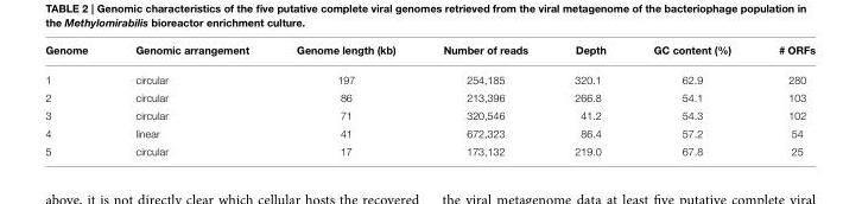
<table><thead><tr><td>Genome</td><td>Genomic arrangement</td><td>Genome length (kb)</td><td>Number of reads</td><td>Depth</td><td>GC content (%)</td><td># ORFs</td></tr></thead><tbody><tr><td>1</td><td>circular</td><td>197</td><td>254,185</td><td>320.1</td><td>62.9</td><td>280</td></tr><tr><td>2</td><td>circular</td><td>86</td><td>213,396</td><td>266.8</td><td>54.1</td><td>103</td></tr><tr><td>3</td><td>circular</td><td>71</td><td>320,546</td><td>41.2</td><td>54.3</td><td>102</td></tr><tr><td>4</td><td>linear</td><td>41</td><td>672,323</td><td>86.4</td><td>57.2</td><td>54</td></tr><tr><td>5</td><td>circular</td><td>17</td><td>173,132</td><td>219.0</td><td>67.8</td><td>25</td></tr></tbody></table>